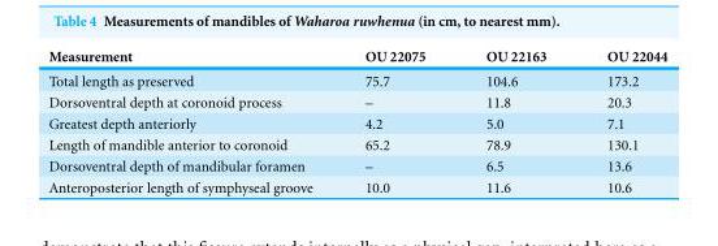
<table><thead><tr><td>Measurement</td><td>OU 22075</td><td>OU 22163</td><td>OU 22044</td></tr></thead><tbody><tr><td>Total length as preserved</td><td>75.7</td><td>104.6</td><td>173.2</td></tr><tr><td>Dorsoventral depth at coronoid process</td><td>–</td><td>11.8</td><td>20.3</td></tr><tr><td>Greatest depth anteriorly</td><td>4.2</td><td>5.0</td><td>7.1</td></tr><tr><td>Length of mandible anterior to coronoid</td><td>65.2</td><td>78.9</td><td>130.1</td></tr><tr><td>Dorsoventral depth of mandibular foramen</td><td>–</td><td>6.5</td><td>13.6</td></tr><tr><td>Anteroposterior length of symphyseal groove</td><td>10.0</td><td>11.6</td><td>10.6</td></tr></tbody></table>